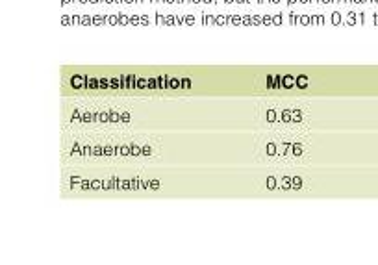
<table><thead><tr><td>Classification</td><td>MCC</td></tr></thead><tbody><tr><td>Aerobe</td><td>0.63</td></tr><tr><td>Anaerobe</td><td>0.76</td></tr><tr><td>Facultative</td><td>0.39</td></tr></tbody></table>